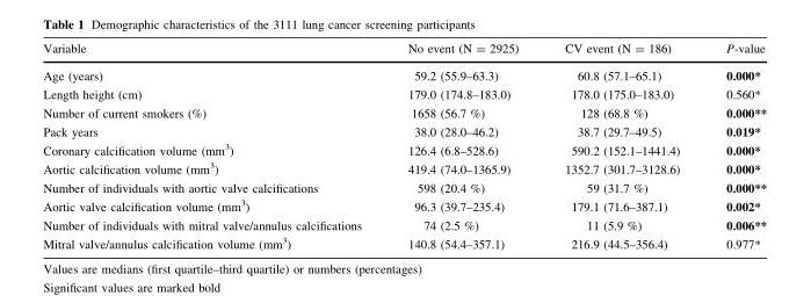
<table><thead><tr><td>Variable</td><td>No event (N = 2925)</td><td>CV event (N = 186)</td><td>P-value</td></tr></thead><tbody><tr><td>Age (years)</td><td>59.2 (55.9–63.3)</td><td>60.8 (57.1–65.1)</td><td>0.000*</td></tr><tr><td>Length height (cm)</td><td>179.0 (174.8–183.0)</td><td>178.0 (175.0–183.0)</td><td>0.560*</td></tr><tr><td>Number of current smokers (%)</td><td>1658 (56.7 %)</td><td>128 (68.8 %)</td><td>0.000**</td></tr><tr><td>Pack years</td><td>38.0 (28.0–46.2)</td><td>38.7 (29.7–49.5)</td><td>0.019*</td></tr><tr><td>Coronary calcification volume (mm<sup>3</sup>)</td><td>126.4 (6.8–528.6)</td><td>590.2 (152.1–1441.4)</td><td>0.000*</td></tr><tr><td>Aortic calcification volume (mm<sup>3</sup>)</td><td>419.4 (74.0–1365.9)</td><td>1352.7 (301.7–3128.6)</td><td>0.000*</td></tr><tr><td>Number of individuals with aortic valve calcifications</td><td>598 (20.4 %)</td><td>59 (31.7 %)</td><td>0.000**</td></tr><tr><td>Aortic valve calcification volume (mm<sup>3</sup>)</td><td>96.3 (39.7–235.4)</td><td>179.1 (71.6–387.1)</td><td>0.002*</td></tr><tr><td>Number of individuals with mitral valve/annulus calcifications</td><td>74 (2.5 %)</td><td>11 (5.9 %)</td><td>0.006**</td></tr><tr><td>Mitral valve/annulus calcification volume (mm<sup>3</sup>)</td><td>140.8 (54.4–357.1)</td><td>216.9 (44.5–356.4)</td><td>0.977*</td></tr></tbody></table>